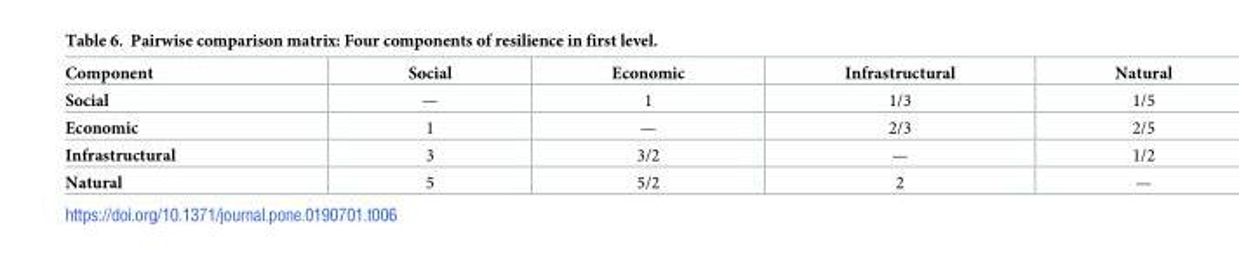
<table><tbody><tr><td>Component</td><td>Social</td><td>Economic</td><td>Infrastructural</td><td>Natural</td></tr><tr><td>Social</td><td>—</td><td>1</td><td>1/3</td><td>1/5</td></tr><tr><td>Economic</td><td>1</td><td>—</td><td>2/3</td><td>2/5</td></tr><tr><td>Infrastructural</td><td>3</td><td>3/2</td><td>—</td><td>1/2</td></tr><tr><td>Natural</td><td>5</td><td>5/2</td><td>2</td><td>—</td></tr></tbody></table>